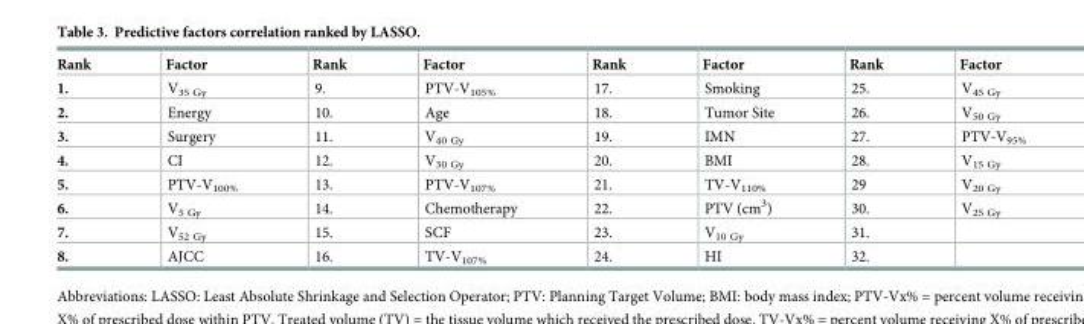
<table><thead><tr><td>Rank</td><td>Factor</td><td>Rank</td><td>Factor</td><td>Rank</td><td>Factor</td><td>Rank</td><td>Factor</td></tr></thead><tbody><tr><td>1.</td><td>V<sub>35 Gy</sub></td><td>9.</td><td>PTV-V<sub>105%</sub></td><td>17.</td><td>Smoking</td><td>25.</td><td>V<sub>45 Gy</sub></td></tr><tr><td>2.</td><td>Energy</td><td>10.</td><td>Age</td><td>18.</td><td>Tumor Site</td><td>26.</td><td>V<sub>50 Gy</sub></td></tr><tr><td>3.</td><td>Surgery</td><td>11.</td><td>V<sub>40 Gy</sub></td><td>19.</td><td>IMN</td><td>27.</td><td>PTV-V<sub>95%</sub></td></tr><tr><td>4.</td><td>CI</td><td>12.</td><td>V<sub>30 Gy</sub></td><td>20.</td><td>BMI</td><td>28.</td><td>V<sub>15 Gy</sub></td></tr><tr><td>5.</td><td>PTV-V<sub>100%</sub></td><td>13.</td><td>PTV-V<sub>107%</sub></td><td>21.</td><td>TV-V<sub>110%</sub></td><td>29</td><td>V<sub>20 Gy</sub></td></tr><tr><td>6.</td><td>V<sub>5 Gy</sub></td><td>14.</td><td>Chemotherapy</td><td>22.</td><td>PTV (cm<sup>3</sup>)</td><td>30.</td><td>V<sub>25 Gy</sub></td></tr><tr><td>7.</td><td>V<sub>52 Gy</sub></td><td>15.</td><td>SCF</td><td>23.</td><td>V<sub>10 Gy</sub></td><td>31.</td><td></td></tr><tr><td>8.</td><td>AJCC</td><td>16.</td><td>TV-V<sub>107%</sub></td><td>24.</td><td>HI</td><td>32.</td><td></td></tr></tbody></table>